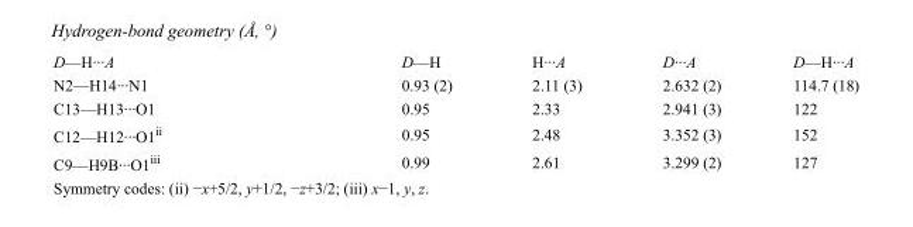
<table><tbody><tr><td>D—H···A</td><td>D—H</td><td>H···A</td><td>D···A</td><td>D—H···A</td></tr><tr><td>N2—H14···N1</td><td>0.93 (2)</td><td>2.11 (3)</td><td>2.632 (2)</td><td>114.7 (18)</td></tr><tr><td>C13—H13···O1</td><td>0.95</td><td>2.33</td><td>2.941 (3)</td><td>122</td></tr><tr><td>C12—H12···O1<sup>ii</sup></td><td>0.95</td><td>2.48</td><td>3.352 (3)</td><td>152</td></tr><tr><td>C9—H9B···O1<sup>iii</sup></td><td>0.99</td><td>2.61</td><td>3.299 (2)</td><td>127</td></tr></tbody></table>